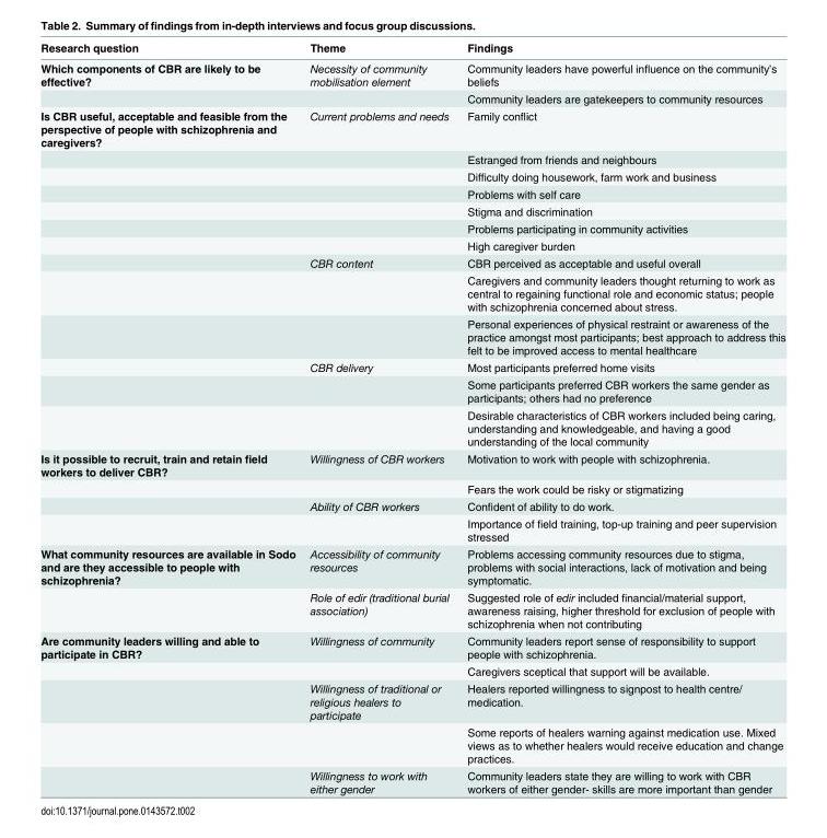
<table><thead><tr><td>Research question</td><td>Theme</td><td>Findings</td></tr></thead><tbody><tr><td rowspan="2">Which components of CBR are likely to be effective?</td><td>Necessity of community mobilisation element</td><td>Community leaders have powerful influence on the community’s beliefs</td></tr><tr><td></td><td>Community leaders are gatekeepers to community resources</td></tr><tr><td rowspan="13">Is CBR useful, acceptable and feasible from the perspective of people with schizophrenia and caregivers?</td><td>Current problems and needs</td><td>Family conflict</td></tr><tr><td></td><td>Estranged from friends and neighbours</td></tr><tr><td></td><td>Difficulty doing housework, farm work and business</td></tr><tr><td></td><td>Problems with self care</td></tr><tr><td></td><td>Stigma and discrimination</td></tr><tr><td></td><td>Problems participating in community activities</td></tr><tr><td></td><td>High caregiver burden</td></tr><tr><td>CBR content</td><td>CBR perceived as acceptable and useful overall</td></tr><tr><td></td><td>Caregivers and community leaders thought returning to work as central to regaining functional role and economic status; people with schizophrenia concerned about stress.</td></tr><tr><td></td><td>Personal experiences of physical restraint or awareness of the practice amongst most participants; best approach to address this felt to be improved access to mental healthcare</td></tr><tr><td>CBR delivery</td><td>Most participants preferred home visits</td></tr><tr><td></td><td>Some participants preferred CBR workers the same gender as participants; others had no preference</td></tr><tr><td></td><td>Desirable characteristics of CBR workers included being caring, understanding and knowledgeable, and having a good understanding of the local community</td></tr><tr><td rowspan="4">Is it possible to recruit, train and retain field workers to deliver CBR?</td><td>Willingness of CBR workers</td><td>Motivation to work with people with schizophrenia.</td></tr><tr><td></td><td>Fears the work could be risky or stigmatizing</td></tr><tr><td>Ability of CBR workers</td><td>Confident of ability to do work.</td></tr><tr><td></td><td>Importance of field training, top-up training and peer supervision stressed</td></tr><tr><td rowspan="2">What community resources are available in Sodo and are they accessible to people with schizophrenia?</td><td>Accessibility of community resources</td><td>Problems accessing community resources due to stigma, problems with social interactions, lack of motivation and being symptomatic.</td></tr><tr><td>Role of edir (traditional burial association)</td><td>Suggested role of edir included financial/material support, awareness raising, higher threshold for exclusion of people with schizophrenia when not contributing</td></tr><tr><td rowspan="5">Are community leaders willing and able to participate in CBR?</td><td>Willingness of community</td><td>Community leaders report sense of responsibility to support people with schizophrenia.</td></tr><tr><td></td><td>Caregivers sceptical that support will be available.</td></tr><tr><td>Willingness of traditional or religious healers to participate</td><td>Healers reported willingness to signpost to health centre/ medication.</td></tr><tr><td></td><td>Some reports of healers warning against medication use. Mixed views as to whether healers would receive education and change practices.</td></tr><tr><td>Willingness to work with either gender</td><td>Community leaders state they are willing to work with CBR workers of either gender- skills are more important than gender</td></tr></tbody></table>